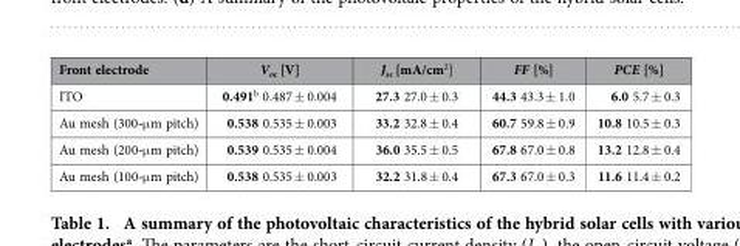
<table><thead><tr><td>Front electrode</td><td>V<sub>oc</sub> [V]</td><td>J<sub>sc</sub> [mA/cm<sup>2</sup>]</td><td>FF [%]</td><td>PCE [%]</td></tr></thead><tbody><tr><td>ITO</td><td>0.491<sup>b</sup> 0.487 ± 0.004</td><td>27.3 27.0 ± 0.3</td><td>44.3 43.3 ± 1.0</td><td>6.0 5.7 ± 0.3</td></tr><tr><td>Au mesh (300-μ m pitch)</td><td>0.538 0.535 ± 0.003</td><td>33.2 32.8 ± 0.4</td><td>60.7 59.8 ± 0.9</td><td>10.8 10.5 ± 0.3</td></tr><tr><td>Au mesh (200-μ m pitch)</td><td>0.539 0.535 ± 0.004</td><td>36.0 35.5 ± 0.5</td><td>67.8 67.0 ± 0.8</td><td>13.2 12.8 ± 0.4</td></tr><tr><td>Au mesh (100-μ m pitch)</td><td>0.538 0.535 ± 0.003</td><td>32.2 31.8 ± 0.4</td><td>67.3 67.0 ± 0.3</td><td>11.6 11.4 ± 0.2</td></tr></tbody></table>